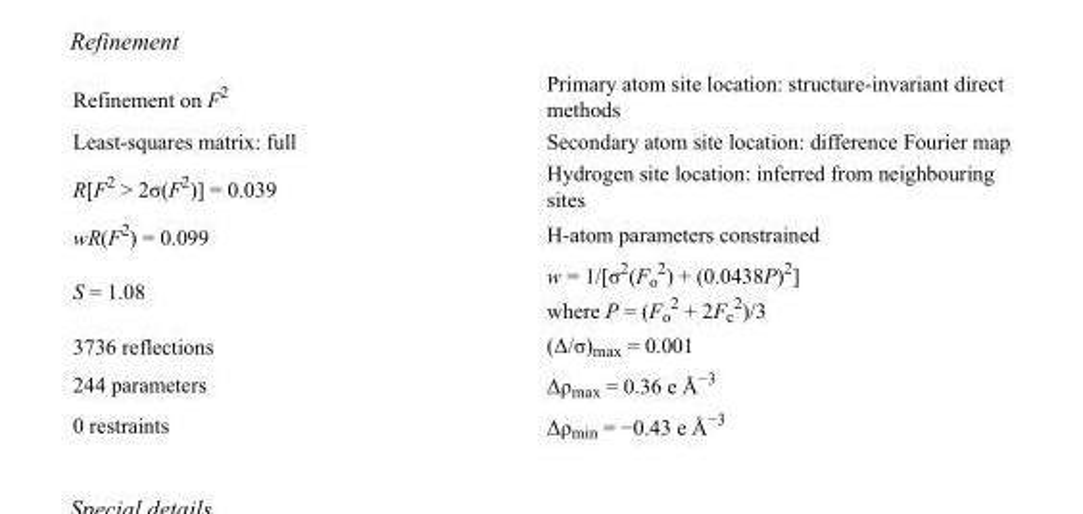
<table><tbody><tr><td>Refinement on F<sup>2</sup></td><td>Primary atom site location: structure-invariant direct methods</td></tr><tr><td>Least-squares matrix: full</td><td>Secondary atom site location: difference Fourier map</td></tr><tr><td>R[F<sup>2</sup> &gt; 2σ(F<sup>2</sup>)] = 0.039</td><td>Hydrogen site location: inferred from neighbouring sites</td></tr><tr><td>wR(F<sup>2</sup>) = 0.099</td><td>H-atom parameters constrained</td></tr><tr><td>S = 1.08</td><td>w = 1/[σ<sup>2</sup>(F<sub>o</sub> <sup>2</sup>) + (0.0438P)<sup>2</sup>] where P = (F<sub>o</sub> <sup>2</sup> + 2F<sub>c</sub> <sup>2</sup>)/3</td></tr><tr><td>3736 reflections</td><td>(Δ/σ)<sub>max</sub> = 0.001</td></tr><tr><td>244 parameters</td><td>Δρ<sub>max</sub> = 0.36 e Å<sup>−3</sup></td></tr><tr><td>0 restraints</td><td>Δρ<sub>min</sub> = −0.43 e Å<sup>−3</sup></td></tr></tbody></table>